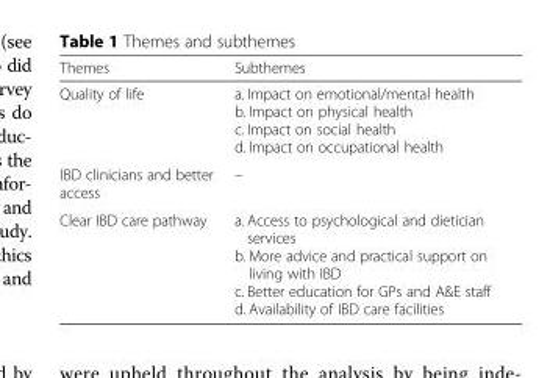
<table><thead><tr><td>Themes</td><td>Subthemes</td></tr></thead><tbody><tr><td>Quality of life</td><td>a. Impact on emotional/mental health b. Impact on physical health c. Impact on social health d. Impact on occupational health</td></tr><tr><td>IBD clinicians and better access</td><td>–</td></tr><tr><td>Clear IBD care pathway</td><td>a. Access to psychological and dietician services b. More advice and practical support on living with IBD c. Better education for GPs and A&amp;E staff d. Availability of IBD care facilities</td></tr></tbody></table>